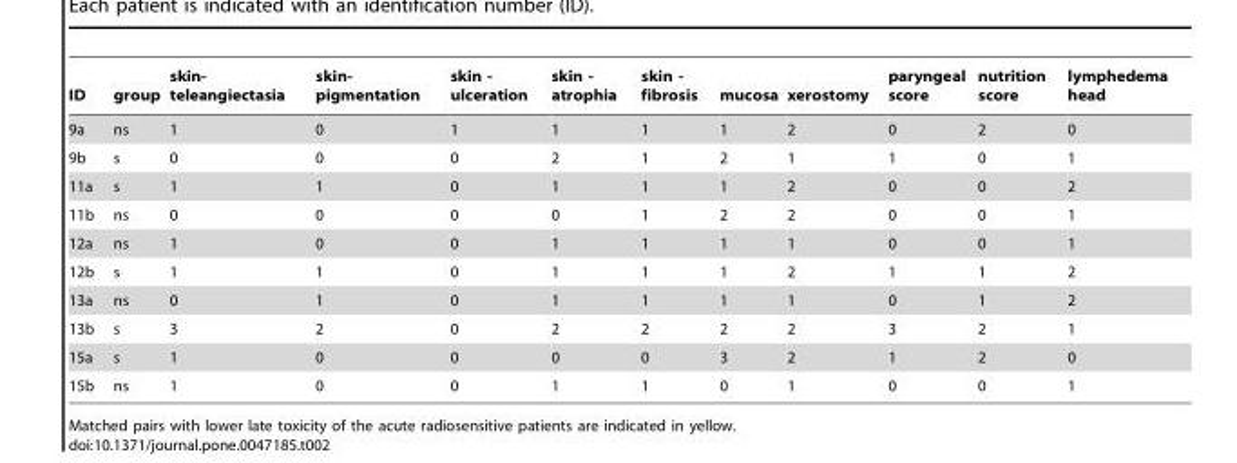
<table><thead><tr><td>ID</td><td>group</td><td>skin- teleangiectasia</td><td>skin- pigmentation</td><td>skin - ulceration</td><td>skin - atrophia</td><td>skin - fibrosis</td><td>mucosa</td><td>xerostomy</td><td>paryngeal score</td><td>nutrition score</td><td>lymphedema head</td></tr></thead><tbody><tr><td>9a</td><td>ns</td><td>1</td><td>0</td><td>1</td><td>1</td><td>1</td><td>1</td><td>2</td><td>0</td><td>2</td><td>0</td></tr><tr><td>9b</td><td>s</td><td>0</td><td>0</td><td>0</td><td>2</td><td>1</td><td>2</td><td>1</td><td>1</td><td>0</td><td>1</td></tr><tr><td>11a</td><td>s</td><td>1</td><td>1</td><td>0</td><td>1</td><td>1</td><td>1</td><td>2</td><td>0</td><td>0</td><td>2</td></tr><tr><td>11b</td><td>ns</td><td>0</td><td>0</td><td>0</td><td>0</td><td>1</td><td>2</td><td>2</td><td>0</td><td>0</td><td>1</td></tr><tr><td>12a</td><td>ns</td><td>1</td><td>0</td><td>0</td><td>1</td><td>1</td><td>1</td><td>1</td><td>0</td><td>0</td><td>1</td></tr><tr><td>12b</td><td>s</td><td>1</td><td>1</td><td>0</td><td>1</td><td>1</td><td>1</td><td>2</td><td>1</td><td>1</td><td>2</td></tr><tr><td>13a</td><td>ns</td><td>0</td><td>1</td><td>0</td><td>1</td><td>1</td><td>1</td><td>1</td><td>0</td><td>1</td><td>2</td></tr><tr><td>13b</td><td>s</td><td>3</td><td>2</td><td>0</td><td>2</td><td>2</td><td>2</td><td>2</td><td>3</td><td>2</td><td>1</td></tr><tr><td>15a</td><td>s</td><td>1</td><td>0</td><td>0</td><td>0</td><td>0</td><td>3</td><td>2</td><td>1</td><td>2</td><td>0</td></tr><tr><td>15b</td><td>ns</td><td>1</td><td>0</td><td>0</td><td>1</td><td>1</td><td>0</td><td>1</td><td>0</td><td>0</td><td>1</td></tr></tbody></table>